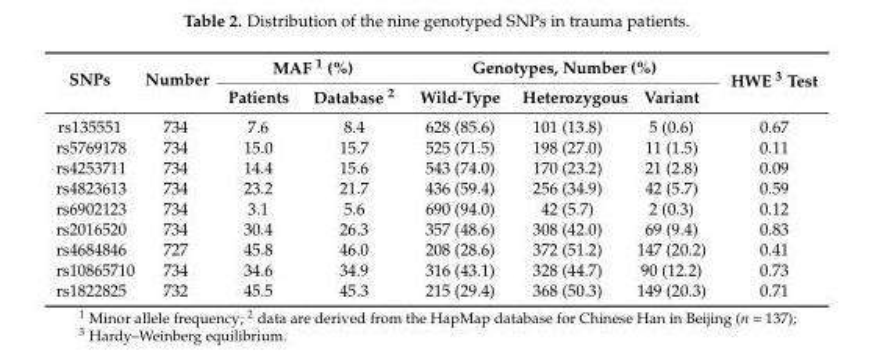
<table><thead><tr><td rowspan="2">SNPs</td><td rowspan="2">Number</td><td colspan="2">MAF <sup>1</sup> (%)</td><td colspan="3">Genotypes, Number (%)</td><td rowspan="2">HWE <sup>3</sup> Test</td></tr><tr><td>Patients</td><td>Database <sup>2</sup></td><td>Wild-Type</td><td>Heterozygous</td><td>Variant</td></tr></thead><tbody><tr><td>rs135551</td><td>734</td><td>7.6</td><td>8.4</td><td>628 (85.6)</td><td>101 (13.8)</td><td>5 (0.6)</td><td>0.67</td></tr><tr><td>rs5769178</td><td>734</td><td>15.0</td><td>15.7</td><td>525 (71.5)</td><td>198 (27.0)</td><td>11 (1.5)</td><td>0.11</td></tr><tr><td>rs4253711</td><td>734</td><td>14.4</td><td>15.6</td><td>543 (74.0)</td><td>170 (23.2)</td><td>21 (2.8)</td><td>0.09</td></tr><tr><td>rs4823613</td><td>734</td><td>23.2</td><td>21.7</td><td>436 (59.4)</td><td>256 (34.9)</td><td>42 (5.7)</td><td>0.59</td></tr><tr><td>rs6902123</td><td>734</td><td>3.1</td><td>5.6</td><td>690 (94.0)</td><td>42 (5.7)</td><td>2 (0.3)</td><td>0.12</td></tr><tr><td>rs2016520</td><td>734</td><td>30.4</td><td>26.3</td><td>357 (48.6)</td><td>308 (42.0)</td><td>69 (9.4)</td><td>0.83</td></tr><tr><td>rs4684846</td><td>727</td><td>45.8</td><td>46.0</td><td>208 (28.6)</td><td>372 (51.2)</td><td>147 (20.2)</td><td>0.41</td></tr><tr><td>rs10865710</td><td>734</td><td>34.6</td><td>34.9</td><td>316 (43.1)</td><td>328 (44.7)</td><td>90 (12.2)</td><td>0.73</td></tr><tr><td>rs1822825</td><td>732</td><td>45.5</td><td>45.3</td><td>215 (29.4)</td><td>368 (50.3)</td><td>149 (20.3)</td><td>0.71</td></tr></tbody></table>